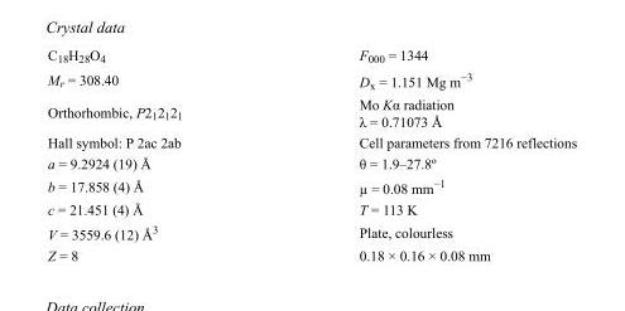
<table><tbody><tr><td>C<sub>18</sub>H<sub>28</sub>O<sub>4</sub></td><td>F000 = 1344</td></tr><tr><td>M<sub>r</sub> = 308.40</td><td>D<sub>x</sub> = 1.151 Mg m<sup>−3</sup></td></tr><tr><td>Orthorhombic, P2<sub>1</sub>2<sub>1</sub>2<sub>1</sub></td><td>Mo Kα radiation λ = 0.71073 Å</td></tr><tr><td>Hall symbol: P 2ac 2ab</td><td>Cell parameters from 7216 reflections</td></tr><tr><td>a = 9.2924 (19) Å</td><td>θ = 1.9–27.8º</td></tr><tr><td>b = 17.858 (4) Å</td><td>µ = 0.08 mm<sup>−1</sup></td></tr><tr><td>c = 21.451 (4) Å</td><td>T = 113 K</td></tr><tr><td>V = 3559.6 (12) Å<sup>3</sup></td><td>Plate, colourless</td></tr><tr><td>Z = 8</td><td>0.18 × 0.16 × 0.08 mm</td></tr></tbody></table>